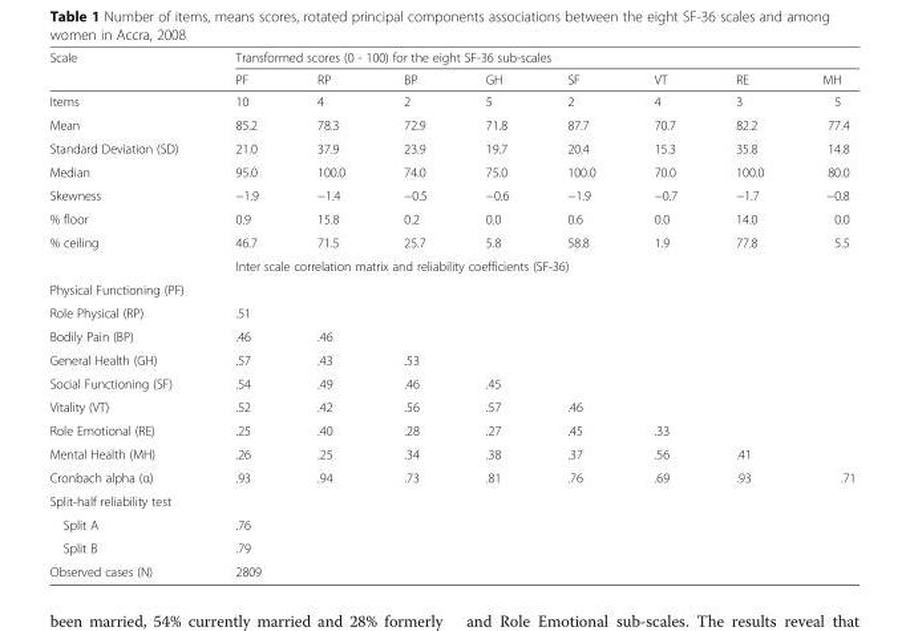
<table><thead><tr><td rowspan="2">Scale</td><td colspan="8">Transformed scores (0 - 100) for the eight SF-36 sub-scales</td></tr><tr><td>PF</td><td>RP</td><td>BP</td><td>GH</td><td>SF</td><td>VT</td><td>RE</td><td>MH</td></tr></thead><tbody><tr><td>Items</td><td>10</td><td>4</td><td>2</td><td>5</td><td>2</td><td>4</td><td>3</td><td>5</td></tr><tr><td>Mean</td><td>85.2</td><td>78.3</td><td>72.9</td><td>71.8</td><td>87.7</td><td>70.7</td><td>82.2</td><td>77.4</td></tr><tr><td>Standard Deviation (SD)</td><td>21.0</td><td>37.9</td><td>23.9</td><td>19.7</td><td>20.4</td><td>15.3</td><td>35.8</td><td>14.8</td></tr><tr><td>Median</td><td>95.0</td><td>100.0</td><td>74.0</td><td>75.0</td><td>100.0</td><td>70.0</td><td>100.0</td><td>80.0</td></tr><tr><td>Skewness</td><td>−1.9</td><td>−1.4</td><td>−0.5</td><td>−0.6</td><td>−1.9</td><td>−0.7</td><td>−1.7</td><td>−0.8</td></tr><tr><td>% floor</td><td>0.9</td><td>15.8</td><td>0.2</td><td>0.0</td><td>0.6</td><td>0.0</td><td>14.0</td><td>0.0</td></tr><tr><td rowspan="2">% ceiling</td><td>46.7</td><td>71.5</td><td>25.7</td><td>5.8</td><td>58.8</td><td>1.9</td><td>77.8</td><td>5.5</td></tr><tr><td colspan="8">Inter scale correlation matrix and reliability coefficients (SF-36)</td></tr><tr><td colspan="9">Physical Functioning (PF)</td></tr><tr><td>Role Physical (RP)</td><td>.51</td><td></td><td></td><td></td><td></td><td></td><td></td><td></td></tr><tr><td>Bodily Pain (BP)</td><td>.46</td><td>.46</td><td></td><td></td><td></td><td></td><td></td><td></td></tr><tr><td>General Health (GH)</td><td>.57</td><td>.43</td><td>.53</td><td></td><td></td><td></td><td></td><td></td></tr><tr><td>Social Functioning (SF)</td><td>.54</td><td>.49</td><td>.46</td><td>.45</td><td></td><td></td><td></td><td></td></tr><tr><td>Vitality (VT)</td><td>.52</td><td>.42</td><td>.56</td><td>.57</td><td>.46</td><td></td><td></td><td></td></tr><tr><td>Role Emotional (RE)</td><td>.25</td><td>.40</td><td>.28</td><td>.27</td><td>.45</td><td>.33</td><td></td><td></td></tr><tr><td>Mental Health (MH)</td><td>.26</td><td>.25</td><td>.34</td><td>.38</td><td>.37</td><td>.56</td><td>.41</td><td></td></tr><tr><td>Cronbach alpha (α)</td><td>.93</td><td>.94</td><td>.73</td><td>.81</td><td>.76</td><td>.69</td><td>.93</td><td>.71</td></tr><tr><td colspan="9">Split-half reliability test</td></tr><tr><td>Split A</td><td colspan="8">.76</td></tr><tr><td>Split B</td><td colspan="8">.79</td></tr><tr><td>Observed cases (N)</td><td colspan="8">2809</td></tr></tbody></table>